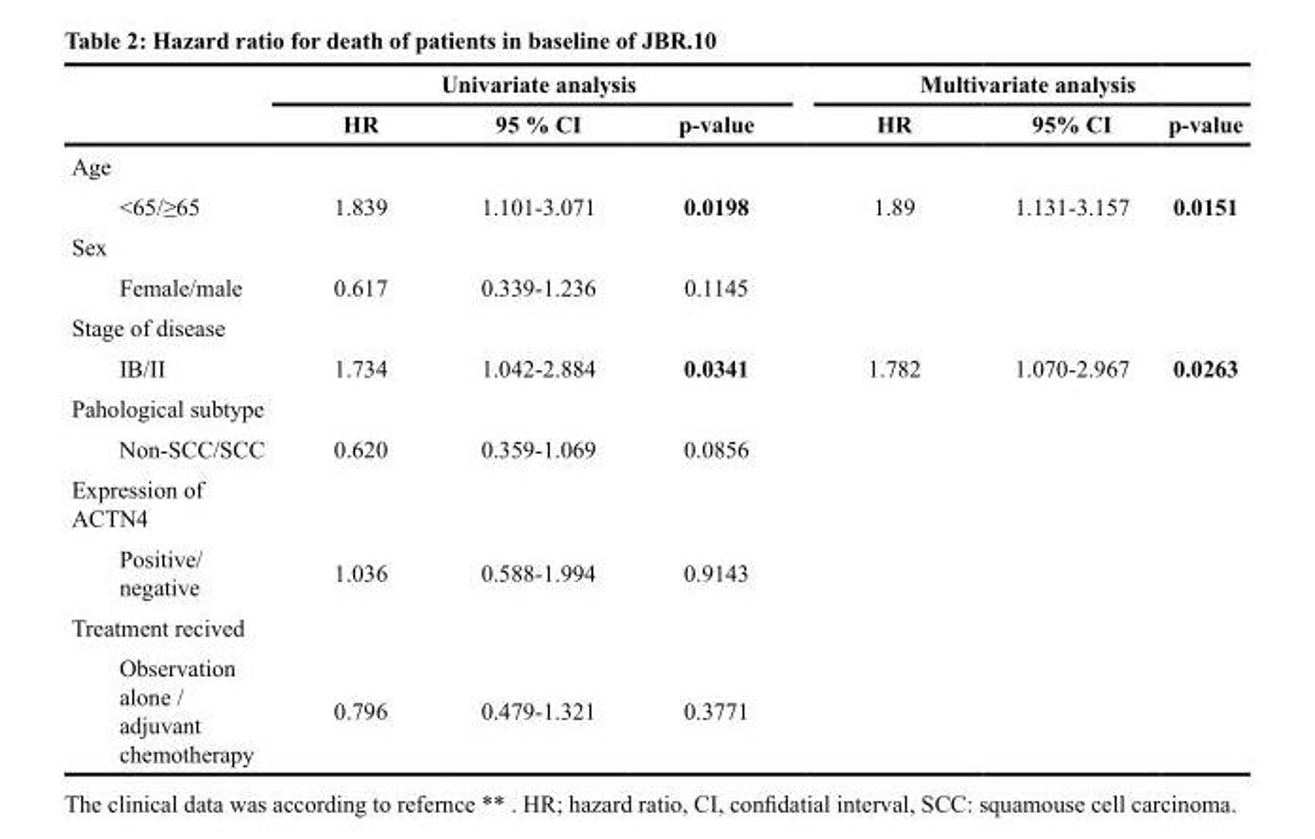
<table><thead><tr><td rowspan="2"></td><td colspan="3">Univariate analysis</td><td colspan="3">Multivariate analysis</td></tr><tr><td>HR</td><td>95 % CI</td><td>p-value</td><td>HR</td><td>95% CI</td><td>p-value</td></tr></thead><tbody><tr><td colspan="7">Age</td></tr><tr><td>&lt;65/≥65</td><td>1.839</td><td>1.101-3.071</td><td>0.0198</td><td>1.89</td><td>1.131-3.157</td><td>0.0151</td></tr><tr><td colspan="7">Sex</td></tr><tr><td>Female/male</td><td>0.617</td><td>0.339-1.236</td><td>0.1145</td><td></td><td></td><td></td></tr><tr><td colspan="7">Stage of disease</td></tr><tr><td>IB/II</td><td>1.734</td><td>1.042-2.884</td><td>0.0341</td><td>1.782</td><td>1.070-2.967</td><td>0.0263</td></tr><tr><td colspan="7">Pahological subtype</td></tr><tr><td>Non-SCC/SCC</td><td>0.620</td><td>0.359-1.069</td><td>0.0856</td><td></td><td></td><td></td></tr><tr><td colspan="7">Expression of ACTN4</td></tr><tr><td>Positive/ negative</td><td>1.036</td><td>0.588-1.994</td><td>0.9143</td><td></td><td></td><td></td></tr><tr><td colspan="7">Treatment recived</td></tr><tr><td>Observation alone / adjuvant chemotherapy</td><td>0.796</td><td>0.479-1.321</td><td>0.3771</td><td></td><td></td><td></td></tr></tbody></table>